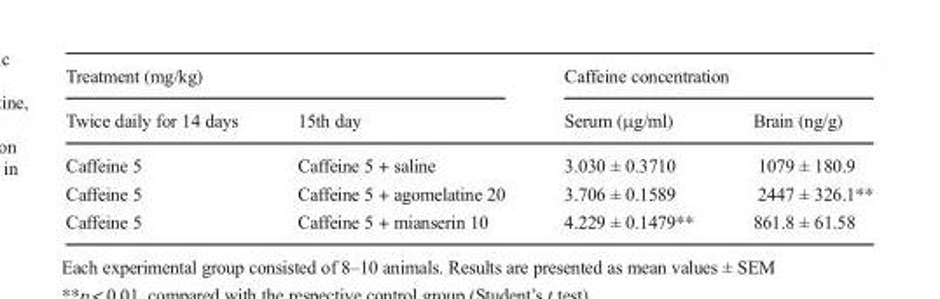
<table><thead><tr><td colspan="2">Treatment (mg/kg)</td><td colspan="2">Caffeine concentration</td></tr><tr><td>Twice daily for 14 days</td><td>15th day</td><td>Serum (μg/ml)</td><td>Brain (ng/g)</td></tr></thead><tbody><tr><td>Caffeine 5</td><td>Caffeine 5 + saline</td><td>3.030 ± 0.3710</td><td>1079 ± 180.9</td></tr><tr><td>Caffeine 5</td><td>Caffeine 5 + agomelatine 20</td><td>3.706 ± 0.1589</td><td>2447 ± 326.1**</td></tr><tr><td>Caffeine 5</td><td>Caffeine 5 + mianserin 10</td><td>4.229 ± 0.1479**</td><td>861.8 ± 61.58</td></tr></tbody></table>